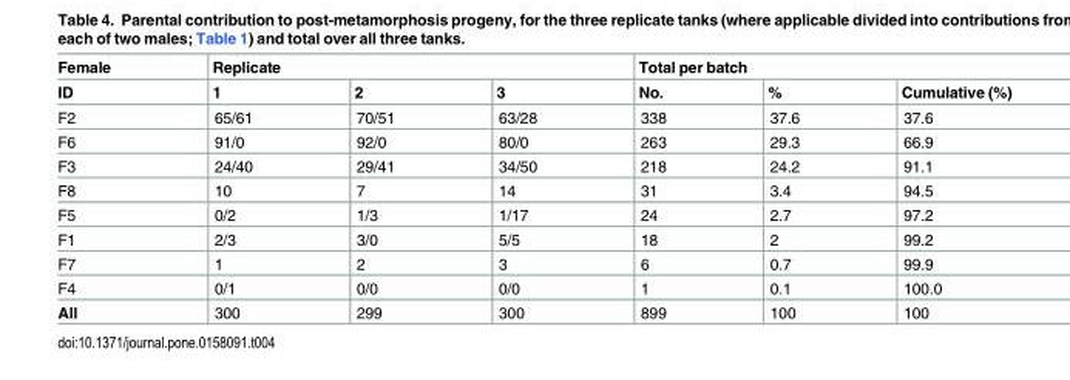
<table><thead><tr><td rowspan="2">Female ID</td><td colspan="3">Replicate</td><td colspan="3">Total per batch</td></tr><tr><td>1</td><td>2</td><td>3</td><td>No.</td><td>%</td><td>Cumulative (%)</td></tr></thead><tbody><tr><td>F2</td><td>65/61</td><td>70/51</td><td>63/28</td><td>338</td><td>37.6</td><td>37.6</td></tr><tr><td>F6</td><td>91/0</td><td>92/0</td><td>80/0</td><td>263</td><td>29.3</td><td>66.9</td></tr><tr><td>F3</td><td>24/40</td><td>29/41</td><td>34/50</td><td>218</td><td>24.2</td><td>91.1</td></tr><tr><td>F8</td><td>10</td><td>7</td><td>14</td><td>31</td><td>3.4</td><td>94.5</td></tr><tr><td>F5</td><td>0/2</td><td>1/3</td><td>1/17</td><td>24</td><td>2.7</td><td>97.2</td></tr><tr><td>F1</td><td>2/3</td><td>3/0</td><td>5/5</td><td>18</td><td>2</td><td>99.2</td></tr><tr><td>F7</td><td>1</td><td>2</td><td>3</td><td>6</td><td>0.7</td><td>99.9</td></tr><tr><td>F4</td><td>0/1</td><td>0/0</td><td>0/0</td><td>1</td><td>0.1</td><td>100.0</td></tr><tr><td>All</td><td>300</td><td>299</td><td>300</td><td>899</td><td>100</td><td>100</td></tr></tbody></table>